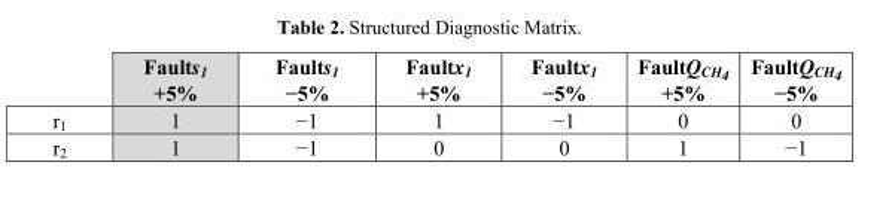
<table><thead><tr><td></td><td>Faults<sub>1</sub> +5%</td><td>Faults<sub>1</sub> −5%</td><td>Faultx<sub>1</sub> +5%</td><td>Faultx<sub>1</sub> −5%</td><td>FaultQ<sub>CH4</sub> +5%</td><td>FaultQ<sub>CH4</sub> −5%</td></tr></thead><tbody><tr><td>r<sub>1</sub></td><td>1</td><td>−1</td><td>1</td><td>−1</td><td>0</td><td>0</td></tr><tr><td>r<sub>2</sub></td><td>1</td><td>−1</td><td>0</td><td>0</td><td>1</td><td>−1</td></tr></tbody></table>